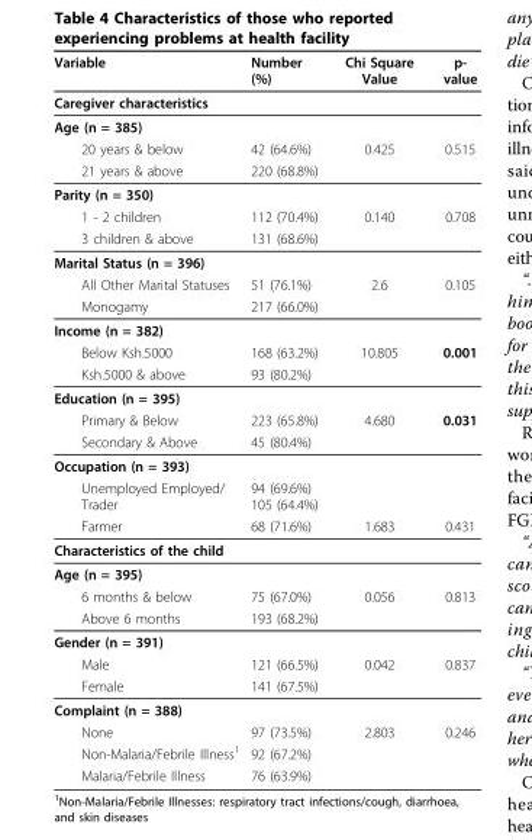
<table><thead><tr><td>Variable</td><td>Number (%)</td><td>Chi Square Value</td><td>p- value</td></tr></thead><tbody><tr><td colspan="4">Caregiver characteristics</td></tr><tr><td colspan="4">Age (n = 385)</td></tr><tr><td>20 years &amp; below</td><td>42 (64.6%)</td><td>0.425</td><td>0.515</td></tr><tr><td>21 years &amp; above</td><td>220 (68.8%)</td><td></td><td></td></tr><tr><td colspan="4">Parity (n = 350)</td></tr><tr><td>1 - 2 children</td><td>112 (70.4%)</td><td>0.140</td><td>0.708</td></tr><tr><td>3 children &amp; above</td><td>131 (68.6%)</td><td></td><td></td></tr><tr><td colspan="4">Marital Status (n = 396)</td></tr><tr><td>All Other Marital Statuses</td><td>51 (76.1%)</td><td>2.6</td><td>0.105</td></tr><tr><td>Monogamy</td><td>217 (66.0%)</td><td></td><td></td></tr><tr><td colspan="4">Income (n = 382)</td></tr><tr><td>Below Ksh.5000</td><td>168 (63.2%)</td><td>10.805</td><td>0.001</td></tr><tr><td>Ksh.5000 &amp; above</td><td>93 (80.2%)</td><td></td><td></td></tr><tr><td colspan="4">Education (n = 395)</td></tr><tr><td>Primary &amp; Below</td><td>223 (65.8%)</td><td>4.680</td><td>0.031</td></tr><tr><td>Secondary &amp; Above</td><td>45 (80.4%)</td><td></td><td></td></tr><tr><td colspan="4">Occupation (n = 393)</td></tr><tr><td>Unemployed Employed/ Trader</td><td>94 (69.6%) 105 (64.4%)</td><td></td><td></td></tr><tr><td>Farmer</td><td>68 (71.6%)</td><td>1.683</td><td>0.431</td></tr><tr><td colspan="4">Characteristics of the child</td></tr><tr><td colspan="4">Age (n = 395)</td></tr><tr><td>6 months &amp; below</td><td>75 (67.0%)</td><td>0.056</td><td>0.813</td></tr><tr><td>Above 6 months</td><td>193 (68.2%)</td><td></td><td></td></tr><tr><td colspan="4">Gender (n = 391)</td></tr><tr><td>Male</td><td>121 (66.5%)</td><td>0.042</td><td>0.837</td></tr><tr><td>Female</td><td>141 (67.5%)</td><td></td><td></td></tr><tr><td colspan="4">Complaint (n = 388)</td></tr><tr><td>None</td><td>97 (73.5%)</td><td>2.803</td><td>0.246</td></tr><tr><td>Non-Malaria/Febrile Illness<sup>1</sup></td><td>92 (67.2%)</td><td></td><td></td></tr><tr><td>Malaria/Febrile Illness</td><td>76 (63.9%)</td><td></td><td></td></tr></tbody></table>